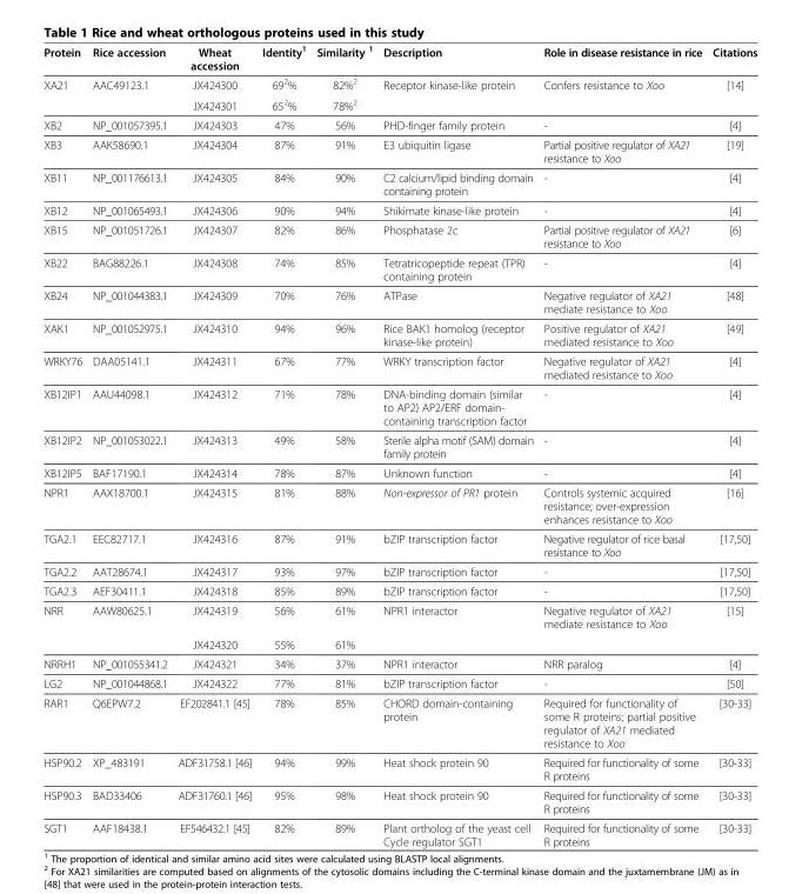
<table><thead><tr><td>Protein</td><td>Rice accession</td><td>Wheat accession</td><td>Identity<sup>1</sup></td><td>Similarity <sup>1</sup></td><td>Description</td><td>Role in disease resistance in rice</td><td>Citations</td></tr></thead><tbody><tr><td rowspan="2">XA21</td><td>AAC49123.1</td><td>JX424300</td><td>69<sup>2</sup>%</td><td>82%<sup>2</sup></td><td>Receptor kinase-like protein</td><td>Confers resistance to Xoo</td><td>[14]</td></tr><tr><td></td><td>JX424301</td><td>65<sup>2</sup>%</td><td>78%<sup>2</sup></td><td></td><td></td><td></td></tr><tr><td>XB2</td><td>NP_001057395.1</td><td>JX424303</td><td>47%</td><td>56%</td><td>PHD-finger family protein</td><td>-</td><td>[4]</td></tr><tr><td>XB3</td><td>AAK58690.1</td><td>JX424304</td><td>87%</td><td>91%</td><td>E3 ubiquitin ligase</td><td>Partial positive regulator of XA21 resistance to Xoo</td><td>[19]</td></tr><tr><td>XB11</td><td>NP_001176613.1</td><td>JX424305</td><td>84%</td><td>90%</td><td>C2 calcium/lipid binding domain containing protein</td><td>-</td><td>[4]</td></tr><tr><td>XB12</td><td>NP_001065493.1</td><td>JX424306</td><td>90%</td><td>94%</td><td>Shikimate kinase-like protein</td><td>-</td><td>[4]</td></tr><tr><td>XB15</td><td>NP_001051726.1</td><td>JX424307</td><td>82%</td><td>86%</td><td>Phosphatase 2c</td><td>Partial positive regulator of XA21 resistance to Xoo</td><td>[6]</td></tr><tr><td>XB22</td><td>BAG88226.1</td><td>JX424308</td><td>74%</td><td>85%</td><td>Tetratricopeptide repeat (TPR) containing protein</td><td>-</td><td>[4]</td></tr><tr><td>XB24</td><td>NP_001044383.1</td><td>JX424309</td><td>70%</td><td>76%</td><td>ATPase</td><td>Negative regulator of XA21 mediate resistance to Xoo</td><td>[48]</td></tr><tr><td>XAK1</td><td>NP_001052975.1</td><td>JX424310</td><td>94%</td><td>96%</td><td>Rice BAK1 homolog (receptor kinase-like protein)</td><td>Positive regulator of XA21 mediated resistance to Xoo</td><td>[49]</td></tr><tr><td>WRKY76</td><td>DAA05141.1</td><td>JX424311</td><td>67%</td><td>77%</td><td>WRKY transcription factor</td><td>Negative regulator of XA21 mediated resistance to Xoo</td><td>[4]</td></tr><tr><td>XB12IP1</td><td>AAU44098.1</td><td>JX424312</td><td>71%</td><td>78%</td><td>DNA-binding domain (similar to AP2) AP2/ERF domain- containing transcription factor</td><td>-</td><td>[4]</td></tr><tr><td>XB12IP2</td><td>NP_001053022.1</td><td>JX424313</td><td>49%</td><td>58%</td><td>Sterile alpha motif (SAM) domain family protein</td><td>-</td><td>[4]</td></tr><tr><td>XB12IP5</td><td>BAF17190.1</td><td>JX424314</td><td>78%</td><td>87%</td><td>Unknown function</td><td>-</td><td>[4]</td></tr><tr><td>NPR1</td><td>AAX18700.1</td><td>JX424315</td><td>81%</td><td>88%</td><td>Non-expressor of PR1 protein</td><td>Controls systemic acquired resistance; over-expression enhances resistance to Xoo</td><td>[16]</td></tr><tr><td>TGA2.1</td><td>EEC82717.1</td><td>JX424316</td><td>87%</td><td>91%</td><td>bZIP transcription factor</td><td>Negative regulator of rice basal resistance to Xoo</td><td>[17,50]</td></tr><tr><td>TGA2.2</td><td>AAT28674.1</td><td>JX424317</td><td>93%</td><td>97%</td><td>bZIP transcription factor</td><td>-</td><td>[17,50]</td></tr><tr><td>TGA2.3</td><td>AEF30411.1</td><td>JX424318</td><td>85%</td><td>89%</td><td>bZIP transcription factor</td><td>-</td><td>[17,50]</td></tr><tr><td rowspan="2">NRR</td><td>AAW80625.1</td><td>JX424319</td><td>56%</td><td>61%</td><td>NPR1 interactor</td><td>Negative regulator of XA21 mediate resistance to Xoo</td><td>[15]</td></tr><tr><td></td><td>JX424320</td><td>55%</td><td>61%</td><td></td><td></td><td></td></tr><tr><td>NRRH1</td><td>NP_001055341.2</td><td>JX424321</td><td>34%</td><td>37%</td><td>NPR1 interactor</td><td>NRR paralog</td><td>[4]</td></tr><tr><td>LG2</td><td>NP_001044868.1</td><td>JX424322</td><td>77%</td><td>81%</td><td>bZIP transcription factor</td><td>-</td><td>[50]</td></tr><tr><td>RAR1</td><td>Q6EPW7.2</td><td>EF202841.1 [45]</td><td>78%</td><td>85%</td><td>CHORD domain-containing protein</td><td>Required for functionality of some R proteins; partial positive regulator of XA21 mediated resistance to Xoo</td><td>[30-33]</td></tr><tr><td>HSP90.2</td><td>XP_483191</td><td>ADF31758.1 [46]</td><td>94%</td><td>99%</td><td>Heat shock protein 90</td><td>Required for functionality of some R proteins</td><td>[30-33]</td></tr><tr><td>HSP90.3</td><td>BAD33406</td><td>ADF31760.1 [46]</td><td>95%</td><td>98%</td><td>Heat shock protein 90</td><td>Required for functionality of some R proteins</td><td>[30-33]</td></tr><tr><td>SGT1</td><td>AAF18438.1</td><td>EF546432.1 [45]</td><td>82%</td><td>89%</td><td>Plant ortholog of the yeast cell Cycle regulator SGT1</td><td>Required for functionality of some R proteins</td><td>[30-33]</td></tr></tbody></table>